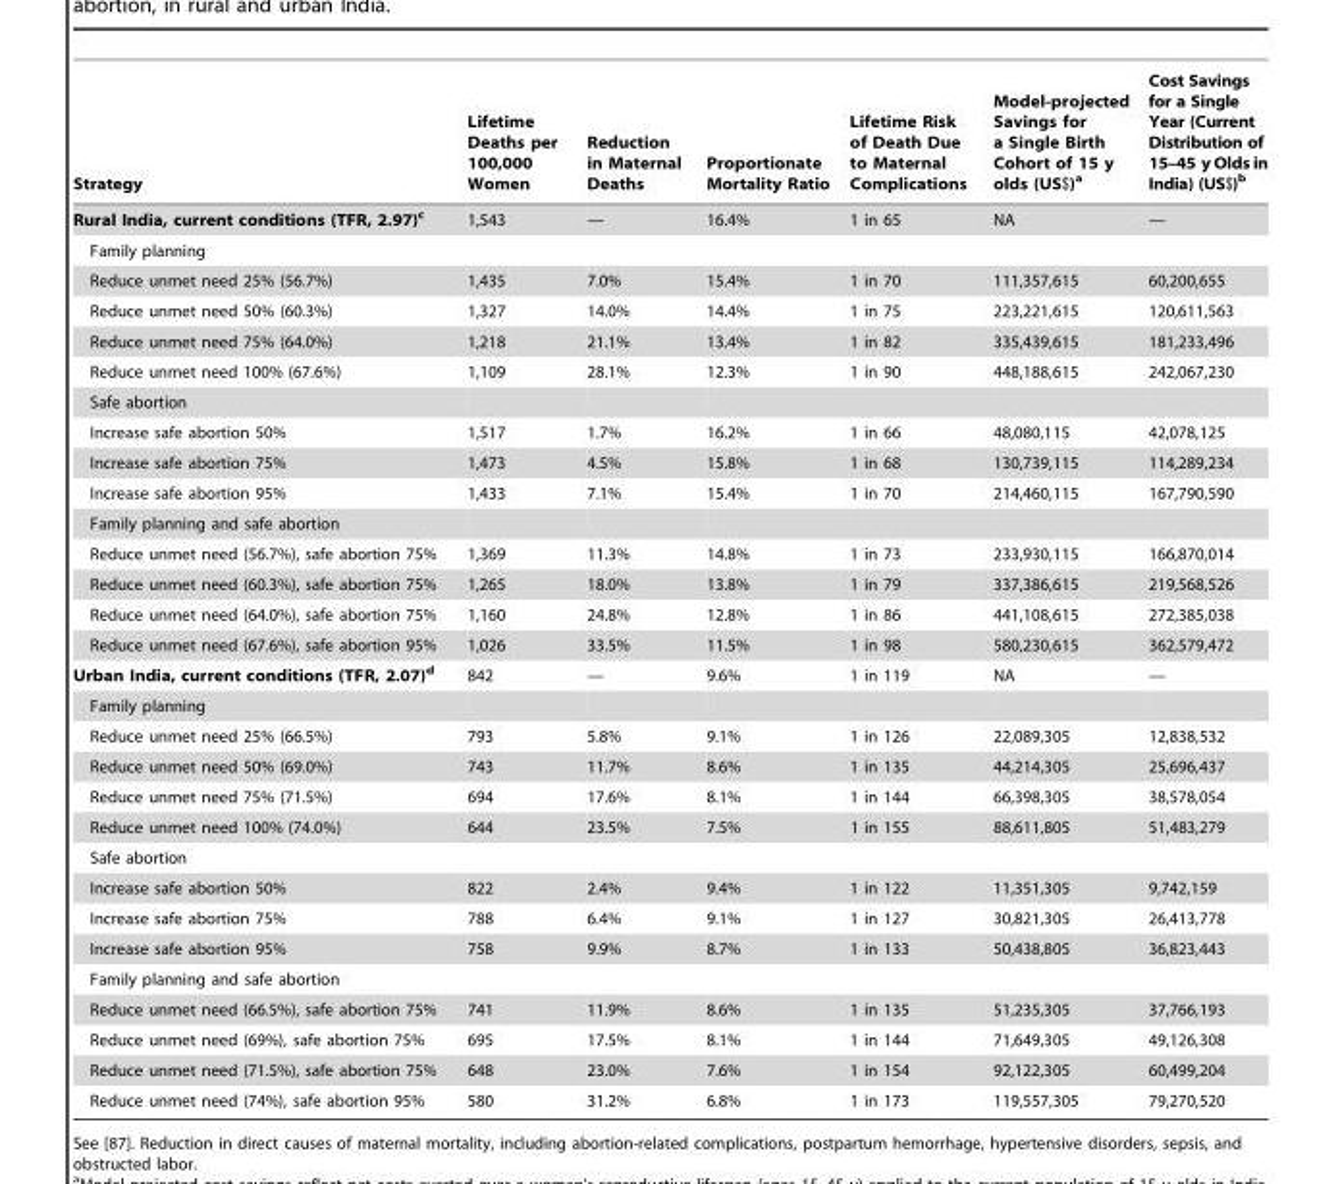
<table><thead><tr><td>Strategy</td><td>Lifetime Deaths per 100,000 Women</td><td>Reduction in Maternal Deaths</td><td>Proportionate Mortality Ratio</td><td>Lifetime Risk of Death Due to Maternal Complications</td><td>Model-projected Savings for a Single Birth Cohort of 15 y olds (US$)<sup>a</sup></td><td>Cost Savings for a Single Year (Current Distribution of 15–45 y Olds in India) (US$)<sup>b</sup></td></tr></thead><tbody><tr><td>Rural India, current conditions (TFR, 2.97)c</td><td>1,543</td><td>—</td><td>16.4%</td><td>1 in 65</td><td>NA</td><td>—</td></tr><tr><td colspan="7">Family planning</td></tr><tr><td>Reduce unmet need 25% (56.7%)</td><td>1,435</td><td>7.0%</td><td>15.4%</td><td>1 in 70</td><td>111,357,615</td><td>60,200,655</td></tr><tr><td>Reduce unmet need 50% (60.3%)</td><td>1,327</td><td>14.0%</td><td>14.4%</td><td>1 in 75</td><td>223,221,615</td><td>120,611,563</td></tr><tr><td>Reduce unmet need 75% (64.0%)</td><td>1,218</td><td>21.1%</td><td>13.4%</td><td>1 in 82</td><td>335,439,615</td><td>181,233,496</td></tr><tr><td>Reduce unmet need 100% (67.6%)</td><td>1,109</td><td>28.1%</td><td>12.3%</td><td>1 in 90</td><td>448,188,615</td><td>242,067,230</td></tr><tr><td colspan="7">Safe abortion</td></tr><tr><td>Increase safe abortion 50%</td><td>1,517</td><td>1.7%</td><td>16.2%</td><td>1 in 66</td><td>48,080,115</td><td>42,078,125</td></tr><tr><td>Increase safe abortion 75%</td><td>1,473</td><td>4.5%</td><td>15.8%</td><td>1 in 68</td><td>130,739,115</td><td>114,289,234</td></tr><tr><td>Increase safe abortion 95%</td><td>1,433</td><td>7.1%</td><td>15.4%</td><td>1 in 70</td><td>214,460,115</td><td>167,790,590</td></tr><tr><td colspan="7">Family planning and safe abortion</td></tr><tr><td>Reduce unmet need (56.7%), safe abortion 75%</td><td>1,369</td><td>11.3%</td><td>14.8%</td><td>1 in 73</td><td>233,930,115</td><td>166,870,014</td></tr><tr><td>Reduce unmet need (60.3%), safe abortion 75%</td><td>1,265</td><td>18.0%</td><td>13.8%</td><td>1 in 79</td><td>337,386,615</td><td>219,568,526</td></tr><tr><td>Reduce unmet need (64.0%), safe abortion 75%</td><td>1,160</td><td>24.8%</td><td>12.8%</td><td>1 in 86</td><td>441,108,615</td><td>272,385,038</td></tr><tr><td>Reduce unmet need (67.6%), safe abortion 95%</td><td>1,026</td><td>33.5%</td><td>11.5%</td><td>1 in 98</td><td>580,230,615</td><td>362,579,472</td></tr><tr><td>Urban India, current conditions (TFR, 2.07)d</td><td>842</td><td>—</td><td>9.6%</td><td>1 in 119</td><td>NA</td><td>—</td></tr><tr><td colspan="7">Family planning</td></tr><tr><td>Reduce unmet need 25% (66.5%)</td><td>793</td><td>5.8%</td><td>9.1%</td><td>1 in 126</td><td>22,089,305</td><td>12,838,532</td></tr><tr><td>Reduce unmet need 50% (69.0%)</td><td>743</td><td>11.7%</td><td>8.6%</td><td>1 in 135</td><td>44,214,305</td><td>25,696,437</td></tr><tr><td>Reduce unmet need 75% (71.5%)</td><td>694</td><td>17.6%</td><td>8.1%</td><td>1 in 144</td><td>66,398,305</td><td>38,578,054</td></tr><tr><td>Reduce unmet need 100% (74.0%)</td><td>644</td><td>23.5%</td><td>7.5%</td><td>1 in 155</td><td>88,611,805</td><td>51,483,279</td></tr><tr><td colspan="7">Safe abortion</td></tr><tr><td>Increase safe abortion 50%</td><td>822</td><td>2.4%</td><td>9.4%</td><td>1 in 122</td><td>11,351,305</td><td>9,742,159</td></tr><tr><td>Increase safe abortion 75%</td><td>788</td><td>6.4%</td><td>9.1%</td><td>1 in 127</td><td>30,821,305</td><td>26,413,778</td></tr><tr><td>Increase safe abortion 95%</td><td>758</td><td>9.9%</td><td>8.7%</td><td>1 in 133</td><td>50,438,805</td><td>36,823,443</td></tr><tr><td colspan="7">Family planning and safe abortion</td></tr><tr><td>Reduce unmet need (66.5%), safe abortion 75%</td><td>741</td><td>11.9%</td><td>8.6%</td><td>1 in 135</td><td>51,235,305</td><td>37,766,193</td></tr><tr><td>Reduce unmet need (69%), safe abortion 75%</td><td>695</td><td>17.5%</td><td>8.1%</td><td>1 in 144</td><td>71,649,305</td><td>49,126,308</td></tr><tr><td>Reduce unmet need (71.5%), safe abortion 75%</td><td>648</td><td>23.0%</td><td>7.6%</td><td>1 in 154</td><td>92,122,305</td><td>60,499,204</td></tr><tr><td>Reduce unmet need (74%), safe abortion 95%</td><td>580</td><td>31.2%</td><td>6.8%</td><td>1 in 173</td><td>119,557,305</td><td>79,270,520</td></tr></tbody></table>